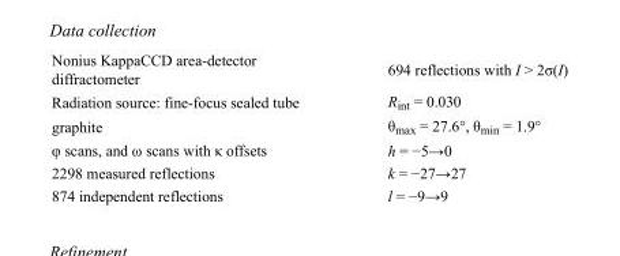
<table><tbody><tr><td>Nonius KappaCCD area-detector diffractometer</td><td>694 reflections with I &gt; 2σ(I)</td></tr><tr><td>Radiation source: fine-focus sealed tube</td><td>R<sub>int</sub> = 0.030</td></tr><tr><td>graphite</td><td>θ<sub>max</sub> = 27.6°, θ<sub>min</sub> = 1.9°</td></tr><tr><td>φ scans, and ω scans with κ offsets</td><td>h = −5→0</td></tr><tr><td>2298 measured reflections</td><td>k = −27→27</td></tr><tr><td>874 independent reflections</td><td>l = −9→9</td></tr></tbody></table>